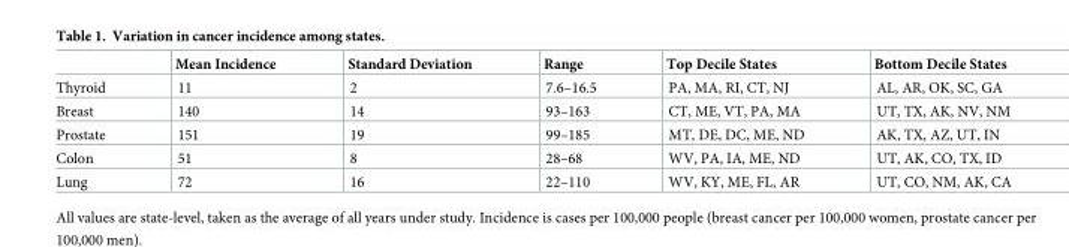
<table><thead><tr><td></td><td>Mean Incidence</td><td>Standard Deviation</td><td>Range</td><td>Top Decile States</td><td>Bottom Decile States</td></tr></thead><tbody><tr><td>Thyroid</td><td>11</td><td>2</td><td>7.6–16.5</td><td>PA, MA, RI, CT, NJ</td><td>AL, AR, OK, SC, GA</td></tr><tr><td>Breast</td><td>140</td><td>14</td><td>93–163</td><td>CT, ME, VT, PA, MA</td><td>UT, TX, AK, NV, NM</td></tr><tr><td>Prostate</td><td>151</td><td>19</td><td>99–185</td><td>MT, DE, DC, ME, ND</td><td>AK, TX, AZ, UT, IN</td></tr><tr><td>Colon</td><td>51</td><td>8</td><td>28–68</td><td>WV, PA, IA, ME, ND</td><td>UT, AK, CO, TX, ID</td></tr><tr><td>Lung</td><td>72</td><td>16</td><td>22–110</td><td>WV, KY, ME, FL, AR</td><td>UT, CO, NM, AK, CA</td></tr></tbody></table>